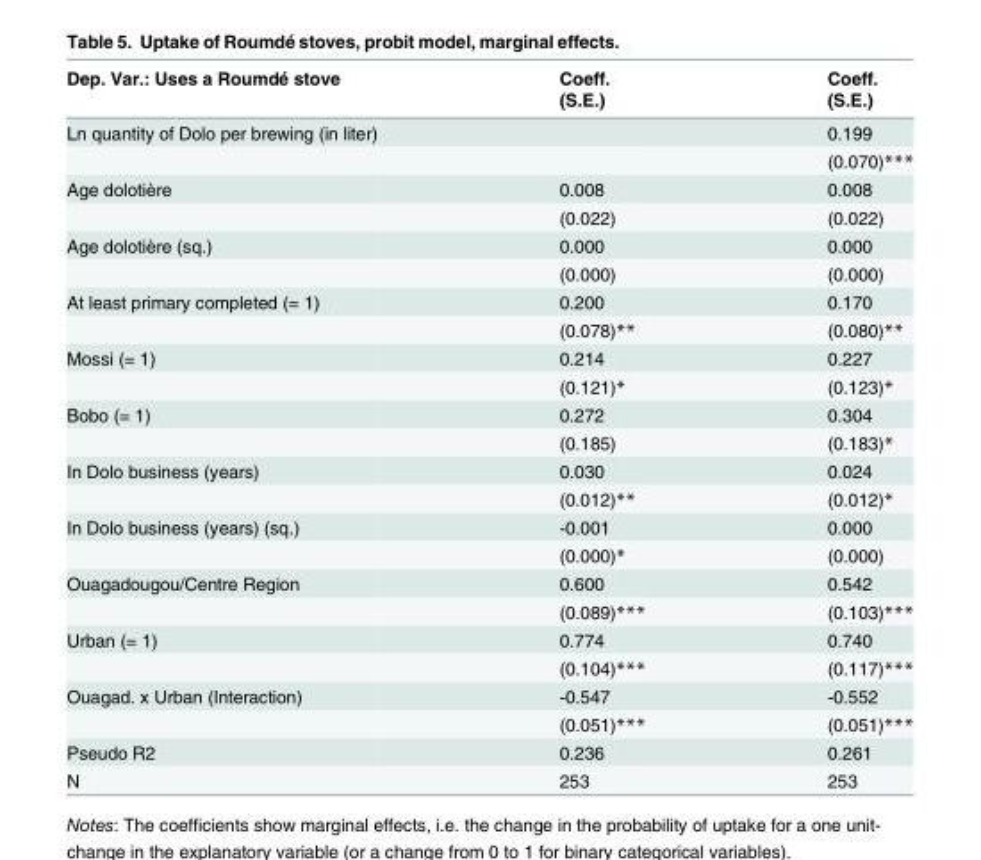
<table><thead><tr><td rowspan="2">Dep. Var.: Uses a Roumdé stove</td><td rowspan="2">Coeff. (S.E.)</td><td rowspan="2">Coeff. (S.E.)</td></tr><tr></tr></thead><tbody><tr><td rowspan="2">Ln quantity of Dolo per brewing (in liter)</td><td></td><td>0.199</td></tr><tr><td></td><td>(0.070)***</td></tr><tr><td rowspan="2">Age dolotière</td><td>0.008</td><td>0.008</td></tr><tr><td>(0.022)</td><td>(0.022)</td></tr><tr><td rowspan="2">Age dolotière (sq.)</td><td>0.000</td><td>0.000</td></tr><tr><td>(0.000)</td><td>(0.000)</td></tr><tr><td rowspan="2">At least primary completed (= 1)</td><td>0.200</td><td>0.170</td></tr><tr><td>(0.078)**</td><td>(0.080)**</td></tr><tr><td rowspan="2">Mossi (= 1)</td><td>0.214</td><td>0.227</td></tr><tr><td>(0.121)*</td><td>(0.123)*</td></tr><tr><td rowspan="2">Bobo (= 1)</td><td>0.272</td><td>0.304</td></tr><tr><td>(0.185)</td><td>(0.183)*</td></tr><tr><td rowspan="2">In Dolo business (years)</td><td>0.030</td><td>0.024</td></tr><tr><td>(0.012)**</td><td>(0.012)*</td></tr><tr><td rowspan="2">In Dolo business (years) (sq.)</td><td>-0.001</td><td>0.000</td></tr><tr><td>(0.000)*</td><td>(0.000)</td></tr><tr><td rowspan="2">Ouagadougou/Centre Region</td><td>0.600</td><td>0.542</td></tr><tr><td>(0.089)***</td><td>(0.103)***</td></tr><tr><td rowspan="2">Urban (= 1)</td><td>0.774</td><td>0.740</td></tr><tr><td>(0.104)***</td><td>(0.117)***</td></tr><tr><td rowspan="2">Ouagad. x Urban (Interaction)</td><td>-0.547</td><td>-0.552</td></tr><tr><td>(0.051)***</td><td>(0.051)***</td></tr><tr><td>Pseudo R2</td><td>0.236</td><td>0.261</td></tr><tr><td>N</td><td>253</td><td>253</td></tr></tbody></table>